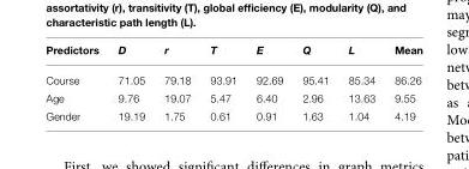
<table><thead><tr><td>Predictors</td><td>D</td><td>r</td><td>T</td><td>E</td><td>Q</td><td>L</td><td>Mean</td></tr></thead><tbody><tr><td>Course</td><td>71.05</td><td>79.18</td><td>93.91</td><td>92.69</td><td>95.41</td><td>85.34</td><td>86.26</td></tr><tr><td>Age</td><td>9.76</td><td>19.07</td><td>5.47</td><td>6.40</td><td>2.96</td><td>13.63</td><td>9.55</td></tr><tr><td>Gender</td><td>19.19</td><td>1.75</td><td>0.61</td><td>0.91</td><td>1.63</td><td>1.04</td><td>4.19</td></tr></tbody></table>